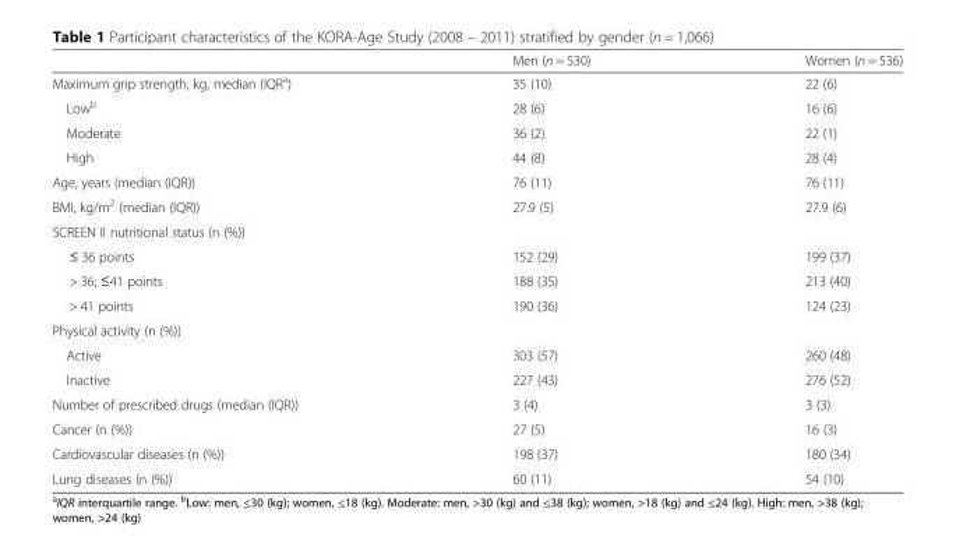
<table><thead><tr><td></td><td>Men (n = 530)</td><td>Women (n = 536)</td></tr></thead><tbody><tr><td>Maximum grip strength, kg, median (IQR<sup>a</sup>)</td><td>35 (10)</td><td>22 (6)</td></tr><tr><td>Low<sup>b</sup></td><td>28 (6)</td><td>16 (6)</td></tr><tr><td>Moderate</td><td>36 (2)</td><td>22 (1)</td></tr><tr><td>High</td><td>44 (8)</td><td>28 (4)</td></tr><tr><td>Age, years (median (IQR))</td><td>76 (11)</td><td>76 (11)</td></tr><tr><td>BMI, kg/m<sup>2</sup> (median (IQR))</td><td>27.9 (5)</td><td>27.9 (6)</td></tr><tr><td colspan="3">SCREEN II nutritional status (n (%))</td></tr><tr><td>≤ 36 points</td><td>152 (29)</td><td>199 (37)</td></tr><tr><td>&gt; 36; ≤41 points</td><td>188 (35)</td><td>213 (40)</td></tr><tr><td>&gt; 41 points</td><td>190 (36)</td><td>124 (23)</td></tr><tr><td colspan="3">Physical activity (n (%))</td></tr><tr><td>Active</td><td>303 (57)</td><td>260 (48)</td></tr><tr><td>Inactive</td><td>227 (43)</td><td>276 (52)</td></tr><tr><td>Number of prescribed drugs (median (IQR))</td><td>3 (4)</td><td>3 (3)</td></tr><tr><td>Cancer (n (%))</td><td>27 (5)</td><td>16 (3)</td></tr><tr><td>Cardiovascular diseases (n (%))</td><td>198 (37)</td><td>180 (34)</td></tr><tr><td>Lung diseases (n (%))</td><td>60 (11)</td><td>54 (10)</td></tr></tbody></table>